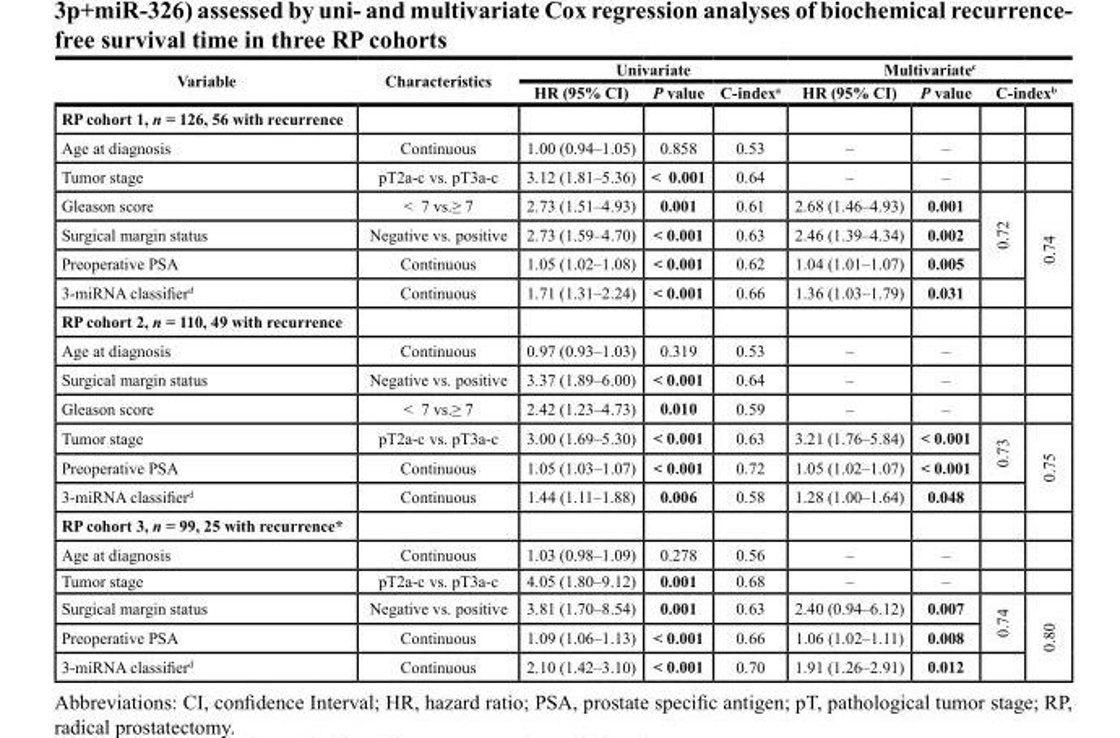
<table><thead><tr><td rowspan="3">Variable RP cohort 1, n = 126, 56 with recurrence</td><td rowspan="3">Characteristics</td><td colspan="3">Univariate</td><td colspan="4">Multivariate<sup>c</sup></td></tr><tr><td rowspan="2">HR (95% CI)</td><td rowspan="2">P value</td><td rowspan="2">C-index<sup>a</sup></td><td rowspan="2">HR (95% CI)</td><td rowspan="2">P value</td><td colspan="2">C-index<sup>b</sup></td></tr><tr><td></td><td></td></tr></thead><tbody><tr><td>Age at diagnosis</td><td>Continuous</td><td>1.00 (0.94–1.05)</td><td>0.858</td><td>0.53</td><td>–</td><td>–</td><td></td><td></td></tr><tr><td>Tumor stage</td><td>pT2a-c vs. pT3a-c</td><td>3.12 (1.81–5.36)</td><td>&lt; 0.001</td><td>0.64</td><td>–</td><td>–</td><td></td><td></td></tr><tr><td>Gleason score</td><td>&lt; 7 vs.≥ 7</td><td>2.73 (1.51–4.93)</td><td>0.001</td><td>0.61</td><td>2.68 (1.46–4.93)</td><td>0.001</td><td rowspan="3">0.72</td><td rowspan="4">0.74</td></tr><tr><td>Surgical margin status</td><td>Negative vs. positive</td><td>2.73 (1.59–4.70)</td><td>&lt; 0.001</td><td>0.63</td><td>2.46 (1.39–4.34)</td><td>0.002</td></tr><tr><td>Preoperative PSA</td><td>Continuous</td><td>1.05 (1.02–1.08)</td><td>&lt; 0.001</td><td>0.62</td><td>1.04 (1.01–1.07)</td><td>0.005</td></tr><tr><td>3-miRNA classifier<sup>d</sup></td><td>Continuous</td><td>1.71 (1.31–2.24)</td><td>&lt; 0.001</td><td>0.66</td><td>1.36 (1.03–1.79)</td><td>0.031</td><td></td></tr><tr><td colspan="9">RP cohort 2, n = 110, 49 with recurrence</td></tr><tr><td>Age at diagnosis</td><td>Continuous</td><td>0.97 (0.93–1.03)</td><td>0.319</td><td>0.53</td><td>–</td><td>–</td><td></td><td></td></tr><tr><td>Surgical margin status</td><td>Negative vs. positive</td><td>3.37 (1.89–6.00)</td><td>&lt; 0.001</td><td>0.64</td><td>–</td><td>–</td><td></td><td></td></tr><tr><td>Gleason score</td><td>&lt; 7 vs.≥ 7</td><td>2.42 (1.23–4.73)</td><td>0.010</td><td>0.59</td><td>–</td><td>–</td><td></td><td></td></tr><tr><td>Tumor stage</td><td>pT2a-c vs. pT3a-c</td><td>3.00 (1.69–5.30)</td><td>&lt; 0.001</td><td>0.63</td><td>3.21 (1.76–5.84)</td><td>&lt; 0.001</td><td rowspan="2">0.73</td><td rowspan="3">0.75</td></tr><tr><td>Preoperative PSA</td><td>Continuous</td><td>1.05 (1.03–1.07)</td><td>&lt; 0.001</td><td>0.72</td><td>1.05 (1.02–1.07)</td><td>&lt; 0.001</td></tr><tr><td>3-miRNA classifier<sup>d</sup></td><td>Continuous</td><td>1.44 (1.11–1.88)</td><td>0.006</td><td>0.58</td><td>1.28 (1.00–1.64)</td><td>0.048</td><td></td></tr><tr><td colspan="9">RP cohort 3, n = 99, 25 with recurrence*</td></tr><tr><td>Age at diagnosis</td><td>Continuous</td><td>1.03 (0.98–1.09)</td><td>0.278</td><td>0.56</td><td>–</td><td>–</td><td></td><td></td></tr><tr><td>Tumor stage</td><td>pT2a-c vs. pT3a-c</td><td>4.05 (1.80–9.12)</td><td>0.001</td><td>0.68</td><td>–</td><td>–</td><td></td><td></td></tr><tr><td>Surgical margin status</td><td>Negative vs. positive</td><td>3.81 (1.70–8.54)</td><td>0.001</td><td>0.63</td><td>2.40 (0.94–6.12)</td><td>0.007</td><td rowspan="2">0.74</td><td rowspan="3">0.80</td></tr><tr><td>Preoperative PSA</td><td>Continuous</td><td>1.09 (1.06–1.13)</td><td>&lt; 0.001</td><td>0.66</td><td>1.06 (1.02–1.11)</td><td>0.008</td></tr><tr><td>3-miRNA classifier<sup>d</sup></td><td>Continuous</td><td>2.10 (1.42–3.10)</td><td>&lt; 0.001</td><td>0.70</td><td>1.91 (1.26–2.91)</td><td>0.012</td><td></td></tr></tbody></table>